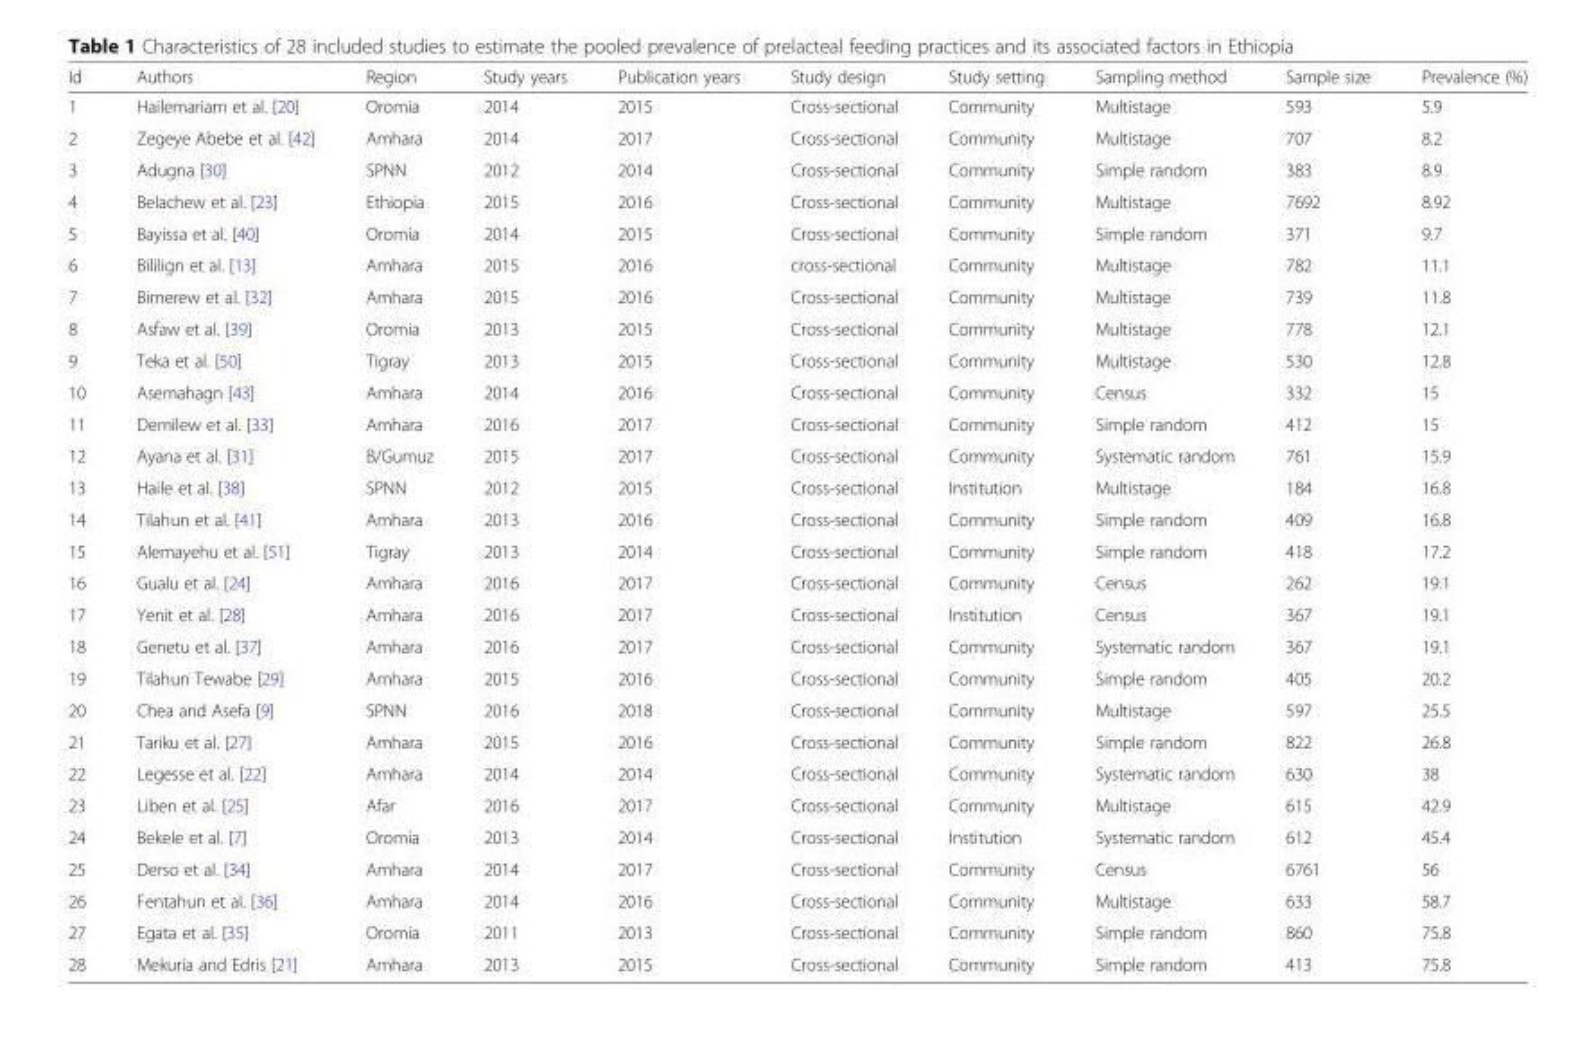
<table><thead><tr><td>Id</td><td>Authors</td><td>Region</td><td>Study years</td><td>Publication years</td><td>Study design</td><td>Study setting</td><td>Sampling method</td><td>Sample size</td><td>Prevalence (%)</td></tr></thead><tbody><tr><td>1</td><td>Hailemariam et al. [20]</td><td>Oromia</td><td>2014</td><td>2015</td><td>Cross-sectional</td><td>Community</td><td>Multistage</td><td>593</td><td>5.9</td></tr><tr><td>2</td><td>Zegeye Abebe et al. [42]</td><td>Amhara</td><td>2014</td><td>2017</td><td>Cross-sectional</td><td>Community</td><td>Multistage</td><td>707</td><td>8.2</td></tr><tr><td>3</td><td>Adugna [30]</td><td>SPNN</td><td>2012</td><td>2014</td><td>Cross-sectional</td><td>Community</td><td>Simple random</td><td>383</td><td>8.9</td></tr><tr><td>4</td><td>Belachew et al. [23]</td><td>Ethiopia</td><td>2015</td><td>2016</td><td>Cross-sectional</td><td>Community</td><td>Multistage</td><td>7692</td><td>8.92</td></tr><tr><td>5</td><td>Bayissa et al. [40]</td><td>Oromia</td><td>2014</td><td>2015</td><td>Cross-sectional</td><td>Community</td><td>Simple random</td><td>371</td><td>9.7</td></tr><tr><td>6</td><td>Bililign et al. [13]</td><td>Amhara</td><td>2015</td><td>2016</td><td>cross-sectional</td><td>Community</td><td>Multistage</td><td>782</td><td>11.1</td></tr><tr><td>7</td><td>Bimerew et al. [32]</td><td>Amhara</td><td>2015</td><td>2016</td><td>Cross-sectional</td><td>Community</td><td>Multistage</td><td>739</td><td>11.8</td></tr><tr><td>8</td><td>Asfaw et al. [39]</td><td>Oromia</td><td>2013</td><td>2015</td><td>Cross-sectional</td><td>Community</td><td>Multistage</td><td>778</td><td>12.1</td></tr><tr><td>9</td><td>Teka et al. [50]</td><td>Tigray</td><td>2013</td><td>2015</td><td>Cross-sectional</td><td>Community</td><td>Multistage</td><td>530</td><td>12.8</td></tr><tr><td>10</td><td>Asemahagn [43]</td><td>Amhara</td><td>2014</td><td>2016</td><td>Cross-sectional</td><td>Community</td><td>Census</td><td>332</td><td>15</td></tr><tr><td>11</td><td>Demilew et al. [33]</td><td>Amhara</td><td>2016</td><td>2017</td><td>Cross-sectional</td><td>Community</td><td>Simple random</td><td>412</td><td>15</td></tr><tr><td>12</td><td>Ayana et al. [31]</td><td>B/Gumuz</td><td>2015</td><td>2017</td><td>Cross-sectional</td><td>Community</td><td>Systematic random</td><td>761</td><td>15.9</td></tr><tr><td>13</td><td>Haile et al. [38]</td><td>SPNN</td><td>2012</td><td>2015</td><td>Cross-sectional</td><td>Institution</td><td>Multistage</td><td>184</td><td>16.8</td></tr><tr><td>14</td><td>Tilahun et al. [41]</td><td>Amhara</td><td>2013</td><td>2016</td><td>Cross-sectional</td><td>Community</td><td>Simple random</td><td>409</td><td>16.8</td></tr><tr><td>15</td><td>Alemayehu et al. [51]</td><td>Tigray</td><td>2013</td><td>2014</td><td>Cross-sectional</td><td>Community</td><td>Simple random</td><td>418</td><td>17.2</td></tr><tr><td>16</td><td>Gualu et al. [24]</td><td>Amhara</td><td>2016</td><td>2017</td><td>Cross-sectional</td><td>Community</td><td>Census</td><td>262</td><td>19.1</td></tr><tr><td>17</td><td>Yenit et al. [28]</td><td>Amhara</td><td>2016</td><td>2017</td><td>Cross-sectional</td><td>Institution</td><td>Census</td><td>367</td><td>19.1</td></tr><tr><td>18</td><td>Genetu et al. [37]</td><td>Amhara</td><td>2016</td><td>2017</td><td>Cross-sectional</td><td>Community</td><td>Systematic random</td><td>367</td><td>19.1</td></tr><tr><td>19</td><td>Tilahun Tewabe [29]</td><td>Amhara</td><td>2015</td><td>2016</td><td>Cross-sectional</td><td>Community</td><td>Simple random</td><td>405</td><td>20.2</td></tr><tr><td>20</td><td>Chea and Asefa [9]</td><td>SPNN</td><td>2016</td><td>2018</td><td>Cross-sectional</td><td>Community</td><td>Multistage</td><td>597</td><td>25.5</td></tr><tr><td>21</td><td>Tariku et al. [27]</td><td>Amhara</td><td>2015</td><td>2016</td><td>Cross-sectional</td><td>Community</td><td>Simple random</td><td>822</td><td>26.8</td></tr><tr><td>22</td><td>Legesse et al. [22]</td><td>Amhara</td><td>2014</td><td>2014</td><td>Cross-sectional</td><td>Community</td><td>Systematic random</td><td>630</td><td>38</td></tr><tr><td>23</td><td>Liben et al. [25]</td><td>Afar</td><td>2016</td><td>2017</td><td>Cross-sectional</td><td>Community</td><td>Multistage</td><td>615</td><td>42.9</td></tr><tr><td>24</td><td>Bekele et al. [7]</td><td>Oromia</td><td>2013</td><td>2014</td><td>Cross-sectional</td><td>Institution</td><td>Systematic random</td><td>612</td><td>45.4</td></tr><tr><td>25</td><td>Derso et al. [34]</td><td>Amhara</td><td>2014</td><td>2017</td><td>Cross-sectional</td><td>Community</td><td>Census</td><td>6761</td><td>56</td></tr><tr><td>26</td><td>Fentahun et al. [36]</td><td>Amhara</td><td>2014</td><td>2016</td><td>Cross-sectional</td><td>Community</td><td>Multistage</td><td>633</td><td>58.7</td></tr><tr><td>27</td><td>Egata et al. [35]</td><td>Oromia</td><td>2011</td><td>2013</td><td>Cross-sectional</td><td>Community</td><td>Simple random</td><td>860</td><td>75.8</td></tr><tr><td>28</td><td>Mekuria and Edris [21]</td><td>Amhara</td><td>2013</td><td>2015</td><td>Cross-sectional</td><td>Community</td><td>Simple random</td><td>413</td><td>75.8</td></tr></tbody></table>